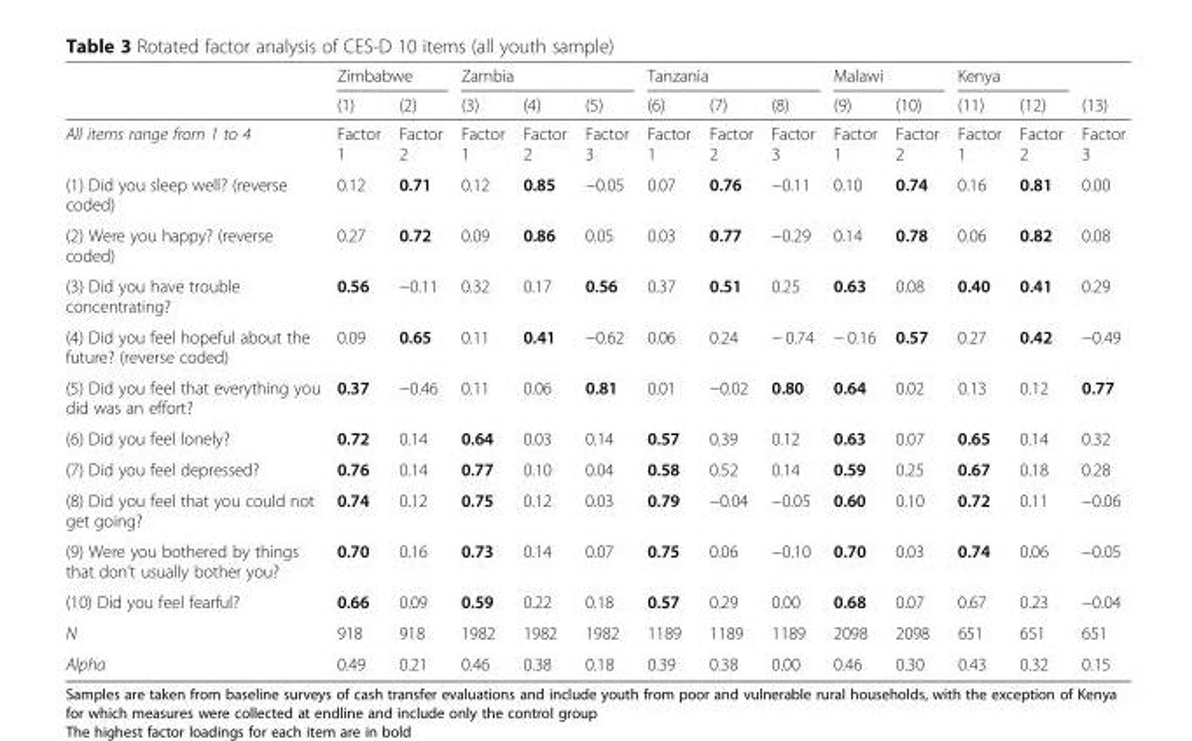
<table><thead><tr><td rowspan="2"></td><td colspan="2">Zimbabwe</td><td colspan="3">Zambia</td><td colspan="3">Tanzania</td><td colspan="2">Malawi</td><td colspan="2">Kenya</td><td rowspan="2">(13)</td></tr><tr><td>(1)</td><td>(2)</td><td>(3)</td><td>(4)</td><td>(5)</td><td>(6)</td><td>(7)</td><td>(8)</td><td>(9)</td><td>(10)</td><td>(11)</td><td>(12)</td></tr></thead><tbody><tr><td>All items range from 1 to 4</td><td>Factor 1</td><td>Factor 2</td><td>Factor 1</td><td>Factor 2</td><td>Factor 3</td><td>Factor 1</td><td>Factor 2</td><td>Factor 3</td><td>Factor 1</td><td>Factor 2</td><td>Factor 1</td><td>Factor 2</td><td>Factor 3</td></tr><tr><td>(1) Did you sleep well? (reverse coded)</td><td>0.12</td><td>0.71</td><td>0.12</td><td>0.85</td><td>−0.05</td><td>0.07</td><td>0.76</td><td>−0.11</td><td>0.10</td><td>0.74</td><td>0.16</td><td>0.81</td><td>0.00</td></tr><tr><td>(2) Were you happy? (reverse coded)</td><td>0.27</td><td>0.72</td><td>0.09</td><td>0.86</td><td>0.05</td><td>0.03</td><td>0.77</td><td>−0.29</td><td>0.14</td><td>0.78</td><td>0.06</td><td>0.82</td><td>0.08</td></tr><tr><td>(3) Did you have trouble concentrating?</td><td>0.56</td><td>−0.11</td><td>0.32</td><td>0.17</td><td>0.56</td><td>0.37</td><td>0.51</td><td>0.25</td><td>0.63</td><td>0.08</td><td>0.40</td><td>0.41</td><td>0.29</td></tr><tr><td>(4) Did you feel hopeful about the future? (reverse coded)</td><td>0.09</td><td>0.65</td><td>0.11</td><td>0.41</td><td>−0.62</td><td>0.06</td><td>0.24</td><td>− 0.74</td><td>− 0.16</td><td>0.57</td><td>0.27</td><td>0.42</td><td>−0.49</td></tr><tr><td>(5) Did you feel that everything you did was an effort?</td><td>0.37</td><td>−0.46</td><td>0.11</td><td>0.06</td><td>0.81</td><td>0.01</td><td>−0.02</td><td>0.80</td><td>0.64</td><td>0.02</td><td>0.13</td><td>0.12</td><td>0.77</td></tr><tr><td>(6) Did you feel lonely?</td><td>0.72</td><td>0.14</td><td>0.64</td><td>0.03</td><td>0.14</td><td>0.57</td><td>0.39</td><td>0.12</td><td>0.63</td><td>0.07</td><td>0.65</td><td>0.14</td><td>0.32</td></tr><tr><td>(7) Did you feel depressed?</td><td>0.76</td><td>0.14</td><td>0.77</td><td>0.10</td><td>0.04</td><td>0.58</td><td>0.52</td><td>0.14</td><td>0.59</td><td>0.25</td><td>0.67</td><td>0.18</td><td>0.28</td></tr><tr><td>(8) Did you feel that you could not get going?</td><td>0.74</td><td>0.12</td><td>0.75</td><td>0.12</td><td>0.03</td><td>0.79</td><td>−0.04</td><td>−0.05</td><td>0.60</td><td>0.10</td><td>0.72</td><td>0.11</td><td>−0.06</td></tr><tr><td>(9) Were you bothered by things that don’t usually bother you?</td><td>0.70</td><td>0.16</td><td>0.73</td><td>0.14</td><td>0.07</td><td>0.75</td><td>0.06</td><td>−0.10</td><td>0.70</td><td>0.03</td><td>0.74</td><td>0.06</td><td>−0.05</td></tr><tr><td>(10) Did you feel fearful?</td><td>0.66</td><td>0.09</td><td>0.59</td><td>0.22</td><td>0.18</td><td>0.57</td><td>0.29</td><td>0.00</td><td>0.68</td><td>0.07</td><td>0.67</td><td>0.23</td><td>−0.04</td></tr><tr><td>N</td><td>918</td><td>918</td><td>1982</td><td>1982</td><td>1982</td><td>1189</td><td>1189</td><td>1189</td><td>2098</td><td>2098</td><td>651</td><td>651</td><td>651</td></tr><tr><td>Alpha</td><td>0.49</td><td>0.21</td><td>0.46</td><td>0.38</td><td>0.18</td><td>0.39</td><td>0.38</td><td>0.00</td><td>0.46</td><td>0.30</td><td>0.43</td><td>0.32</td><td>0.15</td></tr></tbody></table>